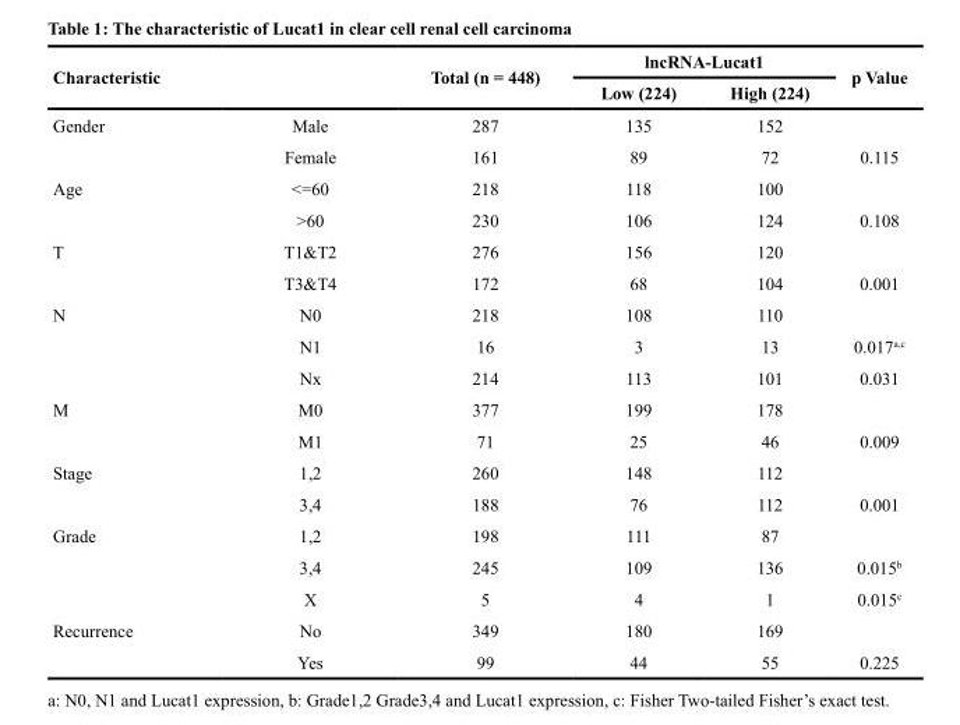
<table><thead><tr><td rowspan="2">Characteristic</td><td rowspan="2"></td><td rowspan="2">Total (n = 448)</td><td colspan="2">lncRNA-Lucat1</td><td rowspan="2">p Value</td></tr><tr><td>Low (224)</td><td>High (224)</td></tr></thead><tbody><tr><td rowspan="2">Gender</td><td>Male</td><td>287</td><td>135</td><td>152</td><td></td></tr><tr><td>Female</td><td>161</td><td>89</td><td>72</td><td>0.115</td></tr><tr><td rowspan="2">Age</td><td>&lt;=60</td><td>218</td><td>118</td><td>100</td><td></td></tr><tr><td>&gt;60</td><td>230</td><td>106</td><td>124</td><td>0.108</td></tr><tr><td rowspan="2">T</td><td>T1&amp;T2</td><td>276</td><td>156</td><td>120</td><td></td></tr><tr><td>T3&amp;T4</td><td>172</td><td>68</td><td>104</td><td>0.001</td></tr><tr><td rowspan="3">N</td><td>N0</td><td>218</td><td>108</td><td>110</td><td></td></tr><tr><td>N1</td><td>16</td><td>3</td><td>13</td><td>0.017<sup>a,c</sup></td></tr><tr><td>Nx</td><td>214</td><td>113</td><td>101</td><td>0.031</td></tr><tr><td rowspan="2">M</td><td>M0</td><td>377</td><td>199</td><td>178</td><td></td></tr><tr><td>M1</td><td>71</td><td>25</td><td>46</td><td>0.009</td></tr><tr><td rowspan="2">Stage</td><td>1,2</td><td>260</td><td>148</td><td>112</td><td></td></tr><tr><td>3,4</td><td>188</td><td>76</td><td>112</td><td>0.001</td></tr><tr><td rowspan="3">Grade</td><td>1,2</td><td>198</td><td>111</td><td>87</td><td></td></tr><tr><td>3,4</td><td>245</td><td>109</td><td>136</td><td>0.015<sup>b</sup></td></tr><tr><td>X</td><td>5</td><td>4</td><td>1</td><td>0.015<sup>c</sup></td></tr><tr><td rowspan="2">Recurrence</td><td>No</td><td>349</td><td>180</td><td>169</td><td></td></tr><tr><td>Yes</td><td>99</td><td>44</td><td>55</td><td>0.225</td></tr></tbody></table>